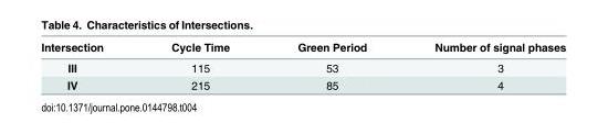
<table><thead><tr><td>Intersection</td><td>Cycle Time</td><td>Green Period</td><td>Number of signal phases</td></tr></thead><tbody><tr><td>III</td><td>115</td><td>53</td><td>3</td></tr><tr><td>IV</td><td>215</td><td>85</td><td>4</td></tr></tbody></table>